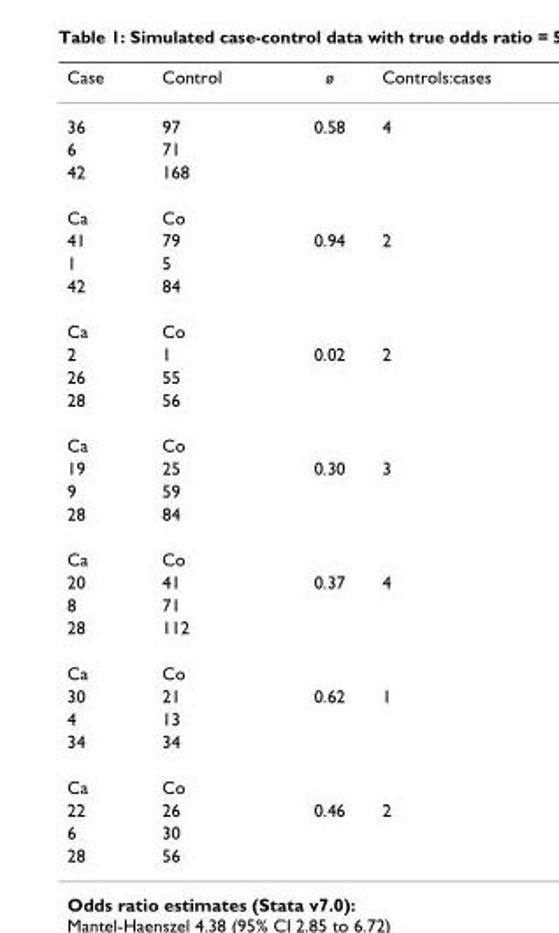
<table><thead><tr><td>Case</td><td>Control</td><td>ø</td><td>Controls:cases</td></tr></thead><tbody><tr><td>36</td><td>97</td><td>0.58</td><td>4</td></tr><tr><td>6</td><td>71</td><td></td><td></td></tr><tr><td>42</td><td>168</td><td></td><td></td></tr><tr><td>Ca</td><td>Co</td><td></td><td></td></tr><tr><td>41</td><td>79</td><td>0.94</td><td>2</td></tr><tr><td>1</td><td>5</td><td></td><td></td></tr><tr><td>42</td><td>84</td><td></td><td></td></tr><tr><td>Ca</td><td>Co</td><td></td><td></td></tr><tr><td>2</td><td>1</td><td>0.02</td><td>2</td></tr><tr><td>26</td><td>55</td><td></td><td></td></tr><tr><td>28</td><td>56</td><td></td><td></td></tr><tr><td>Ca</td><td>Co</td><td></td><td></td></tr><tr><td>19</td><td>25</td><td>0.30</td><td>3</td></tr><tr><td>9</td><td>59</td><td></td><td></td></tr><tr><td>28</td><td>84</td><td></td><td></td></tr><tr><td>Ca</td><td>Co</td><td></td><td></td></tr><tr><td>20</td><td>41</td><td>0.37</td><td>4</td></tr><tr><td>8</td><td>71</td><td></td><td></td></tr><tr><td>28</td><td>112</td><td></td><td></td></tr><tr><td>Ca</td><td>Co</td><td></td><td></td></tr><tr><td>30</td><td>21</td><td>0.62</td><td>1</td></tr><tr><td>4</td><td>13</td><td></td><td></td></tr><tr><td>34</td><td>34</td><td></td><td></td></tr><tr><td>Ca</td><td>Co</td><td></td><td></td></tr><tr><td>22</td><td>26</td><td>0.46</td><td>2</td></tr><tr><td>6</td><td>30</td><td></td><td></td></tr><tr><td>28</td><td>56</td><td></td><td></td></tr></tbody></table>